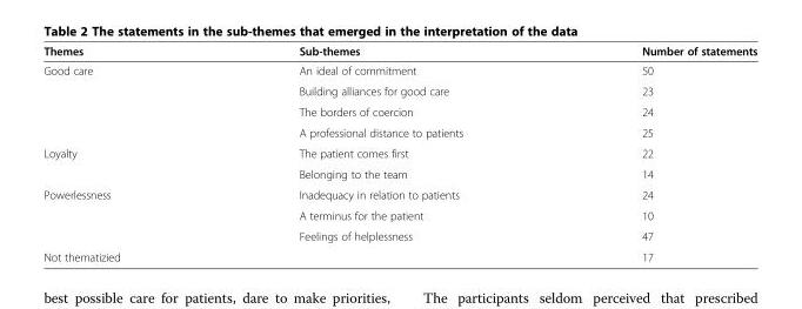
<table><thead><tr><td>Themes</td><td>Sub-themes</td><td>Number of statements</td></tr></thead><tbody><tr><td rowspan="4">Good care</td><td>An ideal of commitment</td><td>50</td></tr><tr><td>Building alliances for good care</td><td>23</td></tr><tr><td>The borders of coercion</td><td>24</td></tr><tr><td>A professional distance to patients</td><td>25</td></tr><tr><td rowspan="2">Loyalty</td><td>The patient comes first</td><td>22</td></tr><tr><td>Belonging to the team</td><td>14</td></tr><tr><td rowspan="3">Powerlessness</td><td>Inadequacy in relation to patients</td><td>24</td></tr><tr><td>A terminus for the patient</td><td>10</td></tr><tr><td>Feelings of helplessness</td><td>47</td></tr><tr><td>Not thematizied</td><td></td><td>17</td></tr></tbody></table>